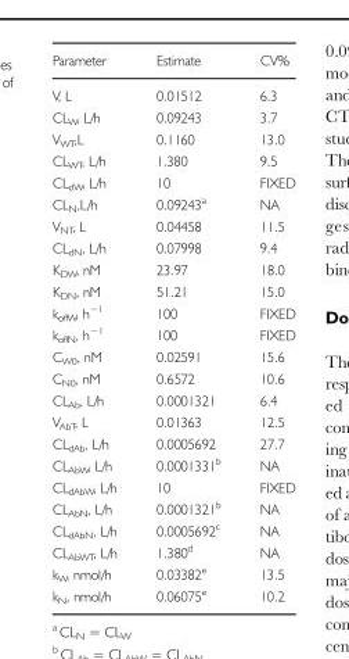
<table><thead><tr><td>Parameter</td><td>Estimate</td><td>CV%</td></tr></thead><tbody><tr><td>V, L</td><td>0.01512</td><td>6.3</td></tr><tr><td>CL<sub>W</sub>, L/h</td><td>0.09243</td><td>3.7</td></tr><tr><td>V<sub>WT</sub>,L</td><td>0.1160</td><td>13.0</td></tr><tr><td>CL<sub>WT</sub>, L/h</td><td>1.380</td><td>9.5</td></tr><tr><td>CL<sub>dW</sub>, L/h</td><td>10</td><td>FIXED</td></tr><tr><td>CL<sub>N</sub>,L/h</td><td>0.09243<sup>a</sup></td><td>NA</td></tr><tr><td>V<sub>NT</sub>, L</td><td>0.04458</td><td>11.5</td></tr><tr><td>CL<sub>dN</sub>, L/h</td><td>0.07998</td><td>9.4</td></tr><tr><td>K<sub>DW</sub>, nM</td><td>23.97</td><td>18.0</td></tr><tr><td>K<sub>DN</sub>, nM</td><td>51.21</td><td>15.0</td></tr><tr><td>k<sub>offW</sub>, h<sup>−1</sup></td><td>100</td><td>FIXED</td></tr><tr><td>k<sub>offN</sub>, h<sup>−1</sup></td><td>100</td><td>FIXED</td></tr><tr><td>C<sub>W0</sub>, nM</td><td>0.02591</td><td>15.6</td></tr><tr><td>C<sub>N0</sub>, nM</td><td>0.6572</td><td>10.6</td></tr><tr><td>CL<sub>Ab</sub>, L/h</td><td>0.0001321</td><td>6.4</td></tr><tr><td>V<sub>AbT</sub>, L</td><td>0.01363</td><td>12.5</td></tr><tr><td>CL<sub>dAb</sub>, L/h</td><td>0.0005692</td><td>27.7</td></tr><tr><td>CL<sub>AbW</sub>, L/h</td><td>0.0001331<sup>b</sup></td><td>NA</td></tr><tr><td>CL<sub>dAbW</sub>, L/h</td><td>10</td><td>FIXED</td></tr><tr><td>CL<sub>AbN</sub>, L/h</td><td>0.0001321<sup>b</sup></td><td>NA</td></tr><tr><td>CL<sub>dAbN</sub>, L/h</td><td>0.0005692<sup>c</sup></td><td>NA</td></tr><tr><td>CL<sub>AbWT</sub>, L/h</td><td>1.380<sup>d</sup></td><td>NA</td></tr><tr><td>k<sub>W</sub>, nmol/h</td><td>0.03382<sup>e</sup></td><td>13.5</td></tr><tr><td>k<sub>N</sub>, nmol/h</td><td>0.06075<sup>e</sup></td><td>10.2</td></tr></tbody></table>